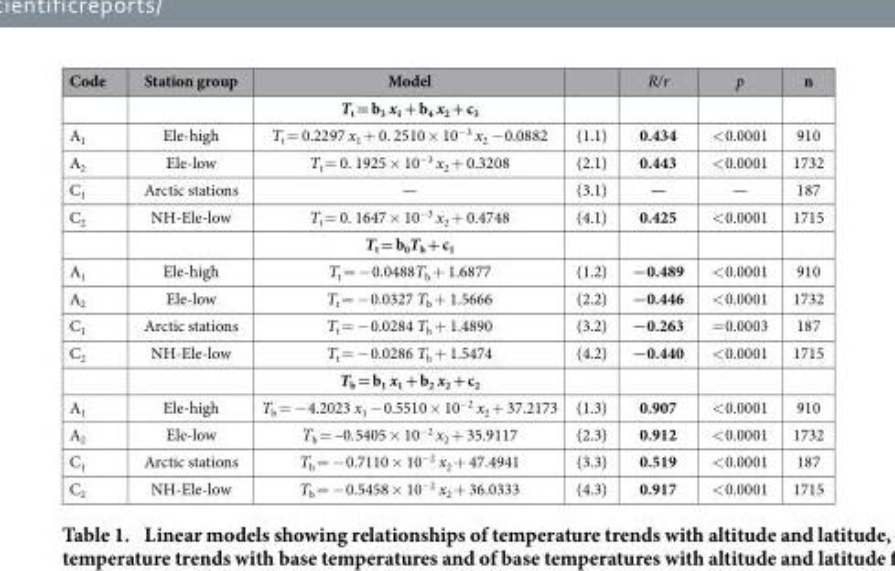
<table><thead><tr><td>Code</td><td>Station group</td><td>Model</td><td></td><td>R/r</td><td>p</td><td>n</td></tr></thead><tbody><tr><td></td><td></td><td>Tt = b3 x1 + b4 x2 + c3</td><td></td><td></td><td></td><td></td></tr><tr><td>A<sub>1</sub></td><td>Ele-high</td><td>T<sub>t</sub> = 0.2297 x<sub>1</sub> + 0. 2510 × 10<sup>−3</sup> x<sub>2</sub> − 0.0882</td><td>(1.1)</td><td>0.434</td><td>&lt; 0.0001</td><td>910</td></tr><tr><td>A<sub>2</sub></td><td>Ele-low</td><td>T<sub>t</sub> = 0. 1925 × 10<sup>−3</sup> x<sub>2</sub> + 0.3208</td><td>(2.1)</td><td>0.443</td><td>&lt; 0.0001</td><td>1732</td></tr><tr><td>C<sub>1</sub></td><td>Arctic stations</td><td>—</td><td>(3.1)</td><td>—</td><td>—</td><td>187</td></tr><tr><td rowspan="2">C<sub>2</sub></td><td>NH-Ele-low</td><td>T<sub>t</sub> = 0. 1647 × 10<sup>−3</sup> x<sub>2</sub> + 0.4748</td><td>(4.1)</td><td>0.425</td><td>&lt; 0.0001</td><td>1715</td></tr><tr><td></td><td>T<sub>t</sub> = b<sub>0</sub>T<sub>b</sub> + c<sub>1</sub></td><td></td><td></td><td></td><td></td></tr><tr><td>A<sub>1</sub></td><td>Ele-high</td><td>T<sub>t</sub> = − 0.0488T<sub>b</sub> + 1.6877</td><td>(1.2)</td><td>−0.489</td><td>&lt; 0.0001</td><td>910</td></tr><tr><td>A<sub>2</sub></td><td>Ele-low</td><td>T<sub>t</sub> = − 0.0327 T<sub>b</sub> + 1.5666</td><td>(2.2)</td><td>−0.446</td><td>&lt; 0.0001</td><td>1732</td></tr><tr><td>C<sub>1</sub></td><td>Arctic stations</td><td>T<sub>t</sub> = − 0.0284 T<sub>b</sub> + 1.4890</td><td>(3.2)</td><td>−0.263</td><td>= 0.0003</td><td>187</td></tr><tr><td rowspan="2">C<sub>2</sub></td><td>NH-Ele-low</td><td>T<sub>t</sub> = − 0.0286 T<sub>b</sub> + 1.5474</td><td>(4.2)</td><td>−0.440</td><td>&lt; 0.0001</td><td>1715</td></tr><tr><td></td><td>Tb = b1 x1 + b2 x2 + c2</td><td></td><td></td><td></td><td></td></tr><tr><td>A<sub>1</sub></td><td>Ele-high</td><td>T<sub>b</sub> = − 4.2023 x<sub>1</sub> − 0.5510 × 10<sup>−2</sup> x<sub>2</sub> + 37.2173</td><td>(1.3)</td><td>0.907</td><td>&lt; 0.0001</td><td>910</td></tr><tr><td>A<sub>2</sub></td><td>Ele-low</td><td>T<sub>b</sub> = –0.5405 × 10<sup>−2</sup> x<sub>2</sub> + 35.9117</td><td>(2.3)</td><td>0.912</td><td>&lt; 0.0001</td><td>1732</td></tr><tr><td>C<sub>1</sub></td><td>Arctic stations</td><td>T<sub>b</sub> = − 0.7110 × 10<sup>−2</sup> x<sub>2</sub> + 47.4941</td><td>(3.3)</td><td>0.519</td><td>&lt; 0.0001</td><td>187</td></tr><tr><td>C<sub>2</sub></td><td>NH-Ele-low</td><td>T<sub>b</sub> = − 0.5458 × 10<sup>−2</sup> x<sub>2</sub> + 36.0333</td><td>(4.3)</td><td>0.917</td><td>&lt; 0.0001</td><td>1715</td></tr></tbody></table>